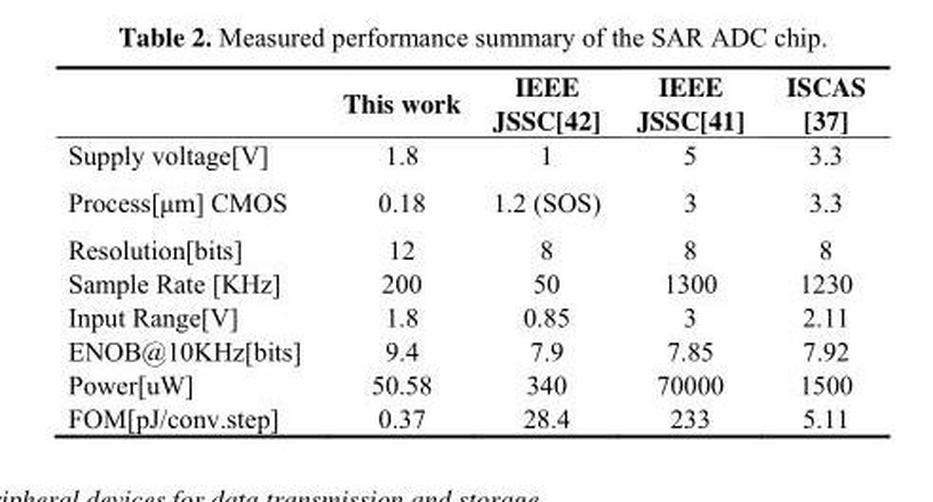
<table><thead><tr><td></td><td>This work</td><td>IEEE JSSC[42]</td><td>IEEE JSSC[41]</td><td>ISCAS [37]</td></tr></thead><tbody><tr><td>Supply voltage[V]</td><td>1.8</td><td>1</td><td>5</td><td>3.3</td></tr><tr><td>Process[μm] CMOS</td><td>0.18</td><td>1.2 (SOS)</td><td>3</td><td>3.3</td></tr><tr><td>Resolution[bits]</td><td>12</td><td>8</td><td>8</td><td>8</td></tr><tr><td>Sample Rate [KHz]</td><td>200</td><td>50</td><td>1300</td><td>1230</td></tr><tr><td>Input Range[V]</td><td>1.8</td><td>0.85</td><td>3</td><td>2.11</td></tr><tr><td>ENOB@10KHz[bits]</td><td>9.4</td><td>7.9</td><td>7.85</td><td>7.92</td></tr><tr><td>Power[uW]</td><td>50.58</td><td>340</td><td>70000</td><td>1500</td></tr><tr><td>FOM[pJ/conv.step]</td><td>0.37</td><td>28.4</td><td>233</td><td>5.11</td></tr></tbody></table>